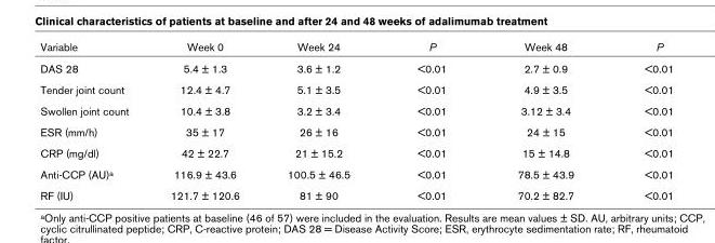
<table><thead><tr><td>Variable</td><td>Week 0</td><td>Week 24</td><td>P</td><td>Week 48</td><td>P</td></tr></thead><tbody><tr><td>DAS 28</td><td>5.4 ± 1.3</td><td>3.6 ± 1.2</td><td>&lt;0.01</td><td>2.7 ± 0.9</td><td>&lt;0.01</td></tr><tr><td>Tender joint count</td><td>12.4 ± 4.7</td><td>5.1 ± 3.5</td><td>&lt;0.01</td><td>4.9 ± 3.5</td><td>&lt;0.01</td></tr><tr><td>Swollen joint count</td><td>10.4 ± 3.8</td><td>3.2 ± 3.4</td><td>&lt;0.01</td><td>3.12 ± 3.4</td><td>&lt;0.01</td></tr><tr><td>ESR (mm/h)</td><td>35 ± 17</td><td>26 ± 16</td><td>&lt;0.01</td><td>24 ± 15</td><td>&lt;0.01</td></tr><tr><td>CRP (mg/dl)</td><td>42 ± 22.7</td><td>21 ± 15.2</td><td>&lt;0.01</td><td>15 ± 14.8</td><td>&lt;0.01</td></tr><tr><td>Anti-CCP (AU)a</td><td>116.9 ± 43.6</td><td>100.5 ± 46.5</td><td>&lt;0.01</td><td>78.5 ± 43.9</td><td>&lt;0.01</td></tr><tr><td>RF (IU)</td><td>121.7 ± 120.6</td><td>81 ± 90</td><td>&lt;0.01</td><td>70.2 ± 82.7</td><td>&lt;0.01</td></tr></tbody></table>